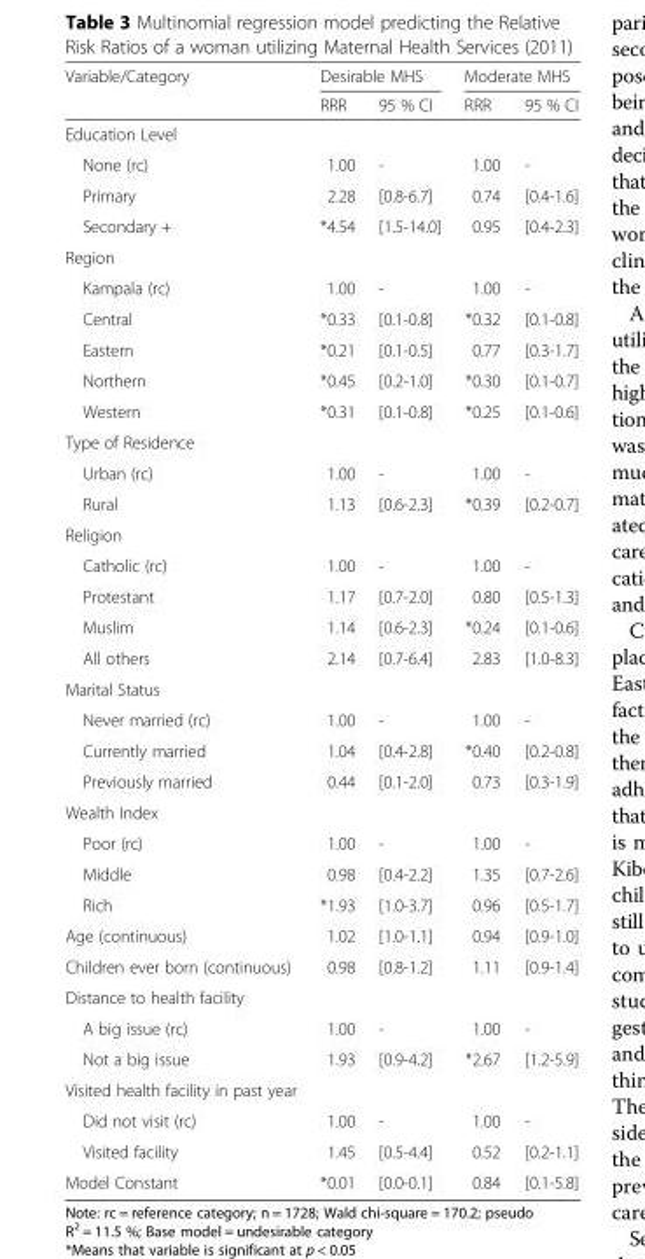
<table><thead><tr><td rowspan="2">Variable/Category</td><td colspan="2">Desirable MHS</td><td colspan="2">Moderate MHS</td></tr><tr><td>RRR</td><td>95 % CI</td><td>RRR</td><td>95 % CI</td></tr></thead><tbody><tr><td colspan="5">Education Level</td></tr><tr><td>None (rc)</td><td>1.00</td><td>-</td><td>1.00</td><td>-</td></tr><tr><td>Primary</td><td>2.28</td><td>[0.8-6.7]</td><td>0.74</td><td>[0.4-1.6]</td></tr><tr><td>Secondary +</td><td>*4.54</td><td>[1.5-14.0]</td><td>0.95</td><td>[0.4-2.3]</td></tr><tr><td colspan="5">Region</td></tr><tr><td>Kampala (rc)</td><td>1.00</td><td>-</td><td>1.00</td><td>-</td></tr><tr><td>Central</td><td>*0.33</td><td>[0.1-0.8]</td><td>*0.32</td><td>[0.1-0.8]</td></tr><tr><td>Eastern</td><td>*0.21</td><td>[0.1-0.5]</td><td>0.77</td><td>[0.3-1.7]</td></tr><tr><td>Northern</td><td>*0.45</td><td>[0.2-1.0]</td><td>*0.30</td><td>[0.1-0.7]</td></tr><tr><td>Western</td><td>*0.31</td><td>[0.1-0.8]</td><td>*0.25</td><td>[0.1-0.6]</td></tr><tr><td colspan="5">Type of Residence</td></tr><tr><td>Urban (rc)</td><td>1.00</td><td>-</td><td>1.00</td><td>-</td></tr><tr><td>Rural</td><td>1.13</td><td>[0.6-2.3]</td><td>*0.39</td><td>[0.2-0.7]</td></tr><tr><td colspan="5">Religion</td></tr><tr><td>Catholic (rc)</td><td>1.00</td><td>-</td><td>1.00</td><td>-</td></tr><tr><td>Protestant</td><td>1.17</td><td>[0.7-2.0]</td><td>0.80</td><td>[0.5-1.3]</td></tr><tr><td>Muslim</td><td>1.14</td><td>[0.6-2.3]</td><td>*0.24</td><td>[0.1-0.6]</td></tr><tr><td>All others</td><td>2.14</td><td>[0.7-6.4]</td><td>2.83</td><td>[1.0-8.3]</td></tr><tr><td colspan="5">Marital Status</td></tr><tr><td>Never married (rc)</td><td>1.00</td><td>-</td><td>1.00</td><td>-</td></tr><tr><td>Currently married</td><td>1.04</td><td>[0.4-2.8]</td><td>*0.40</td><td>[0.2-0.8]</td></tr><tr><td>Previously married</td><td>0.44</td><td>[0.1-2.0]</td><td>0.73</td><td>[0.3-1.9]</td></tr><tr><td colspan="5">Wealth Index</td></tr><tr><td>Poor (rc)</td><td>1.00</td><td>-</td><td>1.00</td><td>-</td></tr><tr><td>Middle</td><td>0.98</td><td>[0.4-2.2]</td><td>1.35</td><td>[0.7-2.6]</td></tr><tr><td>Rich</td><td>*1.93</td><td>[1.0-3.7]</td><td>0.96</td><td>[0.5-1.7]</td></tr><tr><td>Age (continuous)</td><td>1.02</td><td>[1.0-1.1]</td><td>0.94</td><td>[0.9-1.0]</td></tr><tr><td>Children ever born (continuous)</td><td>0.98</td><td>[0.8-1.2]</td><td>1.11</td><td>[0.9-1.4]</td></tr><tr><td colspan="5">Distance to health facility</td></tr><tr><td>A big issue (rc)</td><td>1.00</td><td>-</td><td>1.00</td><td>-</td></tr><tr><td>Not a big issue</td><td>1.93</td><td>[0.9-4.2]</td><td>*2.67</td><td>[1.2-5.9]</td></tr><tr><td colspan="5">Visited health facility in past year</td></tr><tr><td>Did not visit (rc)</td><td>1.00</td><td>-</td><td>1.00</td><td>-</td></tr><tr><td>Visited facility</td><td>1.45</td><td>[0.5-4.4]</td><td>0.52</td><td>[0.2-1.1]</td></tr><tr><td>Model Constant</td><td>*0.01</td><td>[0.0-0.1]</td><td>0.84</td><td>[0.1-5.8]</td></tr></tbody></table>